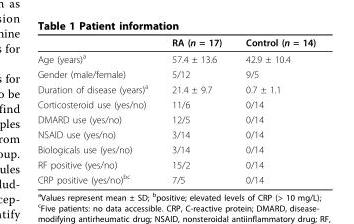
<table><thead><tr><td></td><td>RA (n = 17)</td><td>Control (n = 14)</td></tr></thead><tbody><tr><td>Age (years)<sup>a</sup></td><td>57.4 ± 13.6</td><td>42.9 ± 10.4</td></tr><tr><td>Gender (male/female)</td><td>5/12</td><td>9/5</td></tr><tr><td>Duration of disease (years)<sup>a</sup></td><td>21.4 ± 9.7</td><td>0.7 ± 1.1</td></tr><tr><td>Corticosteroid use (yes/no)</td><td>11/6</td><td>0/14</td></tr><tr><td>DMARD use (yes/no)</td><td>12/5</td><td>0/14</td></tr><tr><td>NSAID use (yes/no)</td><td>3/14</td><td>0/14</td></tr><tr><td>Biologicals use (yes/no)</td><td>3/14</td><td>0/14</td></tr><tr><td>RF positive (yes/no)</td><td>15/2</td><td>0/14</td></tr><tr><td>CRP positive (yes/no)<sup>bc</sup></td><td>7/5</td><td>0/14</td></tr></tbody></table>